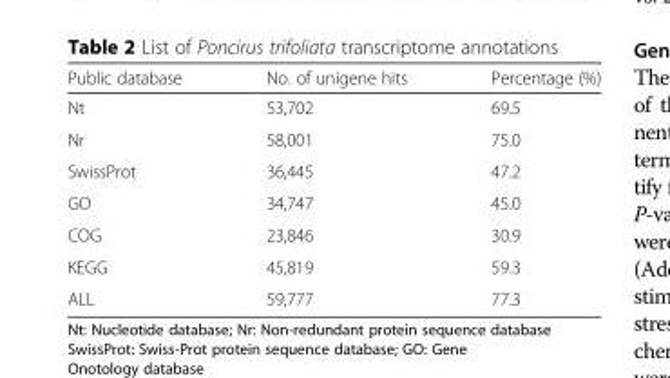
<table><thead><tr><td>Public database</td><td>No. of unigene hits</td><td>Percentage (%)</td></tr></thead><tbody><tr><td>Nt</td><td>53,702</td><td>69.5</td></tr><tr><td>Nr</td><td>58,001</td><td>75.0</td></tr><tr><td>SwissProt</td><td>36,445</td><td>47.2</td></tr><tr><td>GO</td><td>34,747</td><td>45.0</td></tr><tr><td>COG</td><td>23,846</td><td>30.9</td></tr><tr><td>KEGG</td><td>45,819</td><td>59.3</td></tr><tr><td>ALL</td><td>59,777</td><td>77.3</td></tr></tbody></table>